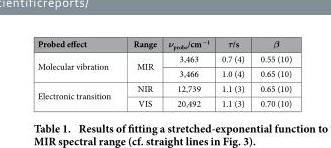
<table><thead><tr><td>Probed effect</td><td>Range</td><td>ν<sub>probe</sub>/cm<sup>−1</sup></td><td>τ/s</td><td>β</td></tr></thead><tbody><tr><td rowspan="2">Molecular vibration</td><td rowspan="2">MIR</td><td>3,463</td><td>0.7 (4)</td><td>0.55 (10)</td></tr><tr><td>3,466</td><td>1.0 (4)</td><td>0.65 (10)</td></tr><tr><td rowspan="2">Electronic transition</td><td>NIR</td><td>12,739</td><td>1.1 (3)</td><td>0.65 (10)</td></tr><tr><td>VIS</td><td>20,492</td><td>1.1 (3)</td><td>0.70 (10)</td></tr></tbody></table>